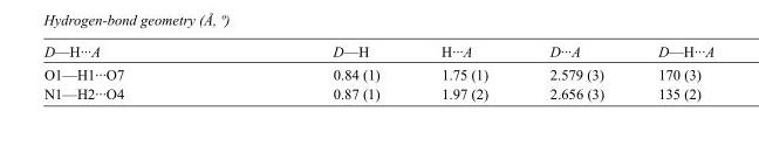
<table><tbody><tr><td>D—H···A</td><td>D—H</td><td>H···A</td><td>D···A</td><td>D—H···A</td></tr><tr><td>O1—H1···O7</td><td>0.84 (1)</td><td>1.75 (1)</td><td>2.579 (3)</td><td>170 (3)</td></tr><tr><td>N1—H2···O4</td><td>0.87 (1)</td><td>1.97 (2)</td><td>2.656 (3)</td><td>135 (2)</td></tr></tbody></table>